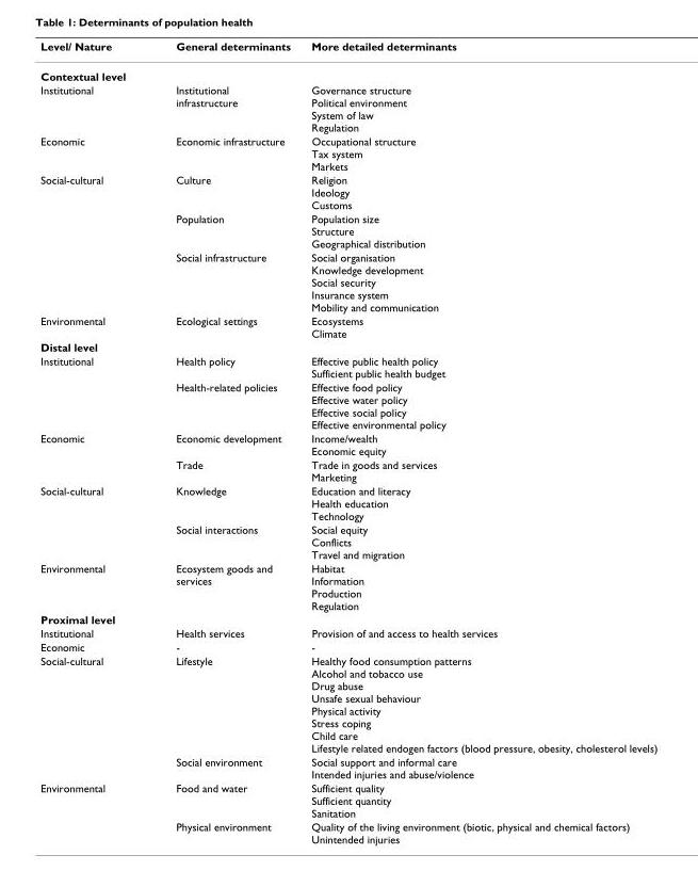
<table><thead><tr><td>Level/ Nature</td><td>General determinants</td><td>More detailed determinants</td></tr></thead><tbody><tr><td colspan="3">Contextual level</td></tr><tr><td>Institutional</td><td>Institutional infrastructure</td><td>Governance structure Political environment System of law Regulation</td></tr><tr><td>Economic</td><td>Economic infrastructure</td><td>Occupational structure Tax system Markets</td></tr><tr><td rowspan="3">Social-cultural</td><td>Culture</td><td>Religion Ideology Customs</td></tr><tr><td>Population</td><td>Population size Structure Geographical distribution</td></tr><tr><td>Social infrastructure</td><td>Social organisation Knowledge development Social security Insurance system Mobility and communication</td></tr><tr><td>Environmental</td><td>Ecological settings</td><td>Ecosystems Climate</td></tr><tr><td colspan="3">Distal level</td></tr><tr><td rowspan="2">Institutional</td><td>Health policy</td><td>Effective public health policy Sufficient public health budget</td></tr><tr><td>Health-related policies</td><td>Effective food policy Effective water policy Effective social policy Effective environmental policy</td></tr><tr><td rowspan="2">Economic</td><td>Economic development</td><td>Income/wealth Economic equity</td></tr><tr><td>Trade</td><td>Trade in goods and services Marketing</td></tr><tr><td rowspan="2">Social-cultural</td><td>Knowledge</td><td>Education and literacy Health education Technology</td></tr><tr><td>Social interactions</td><td>Social equity Conflicts Travel and migration</td></tr><tr><td>Environmental</td><td>Ecosystem goods and services</td><td>Habitat Information Production Regulation</td></tr><tr><td colspan="3">Proximal level</td></tr><tr><td>Institutional</td><td>Health services</td><td>Provision of and access to health services</td></tr><tr><td>Economic</td><td>-</td><td>-</td></tr><tr><td rowspan="2">Social-cultural</td><td>Lifestyle</td><td>Healthy food consumption patterns Alcohol and tobacco use Drug abuse Unsafe sexual behaviour Physical activity Stress coping Child care Lifestyle related endogen factors (blood pressure, obesity, cholesterol levels)</td></tr><tr><td>Social environment</td><td>Social support and informal care Intended injuries and abuse/violence</td></tr><tr><td rowspan="2">Environmental</td><td>Food and water</td><td>Sufficient quality Sufficient quantity Sanitation</td></tr><tr><td>Physical environment</td><td>Quality of the living environment (biotic, physical and chemical factors) Unintended injuries</td></tr></tbody></table>